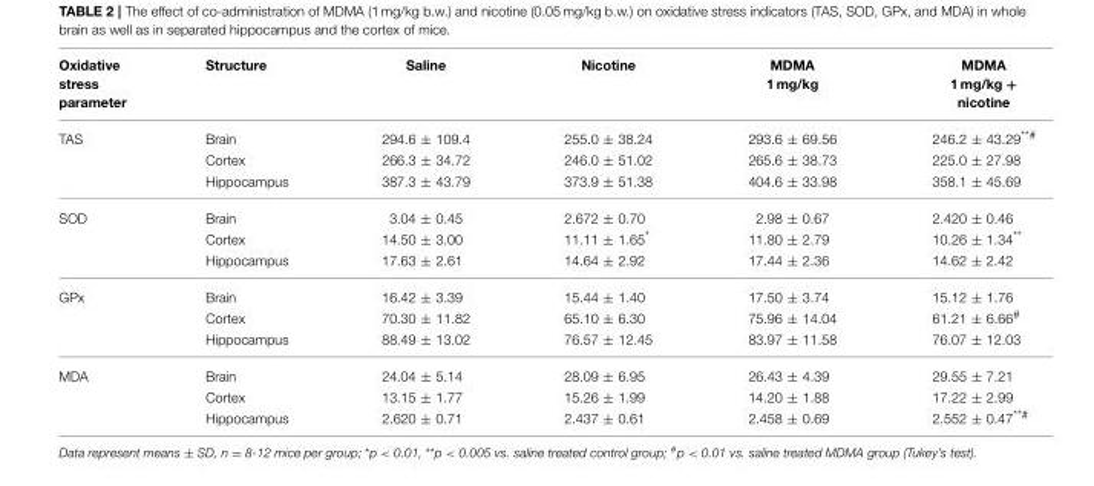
<table><thead><tr><td>Oxidative stress parameter</td><td>Structure</td><td>Saline</td><td>Nicotine</td><td>MDMA 1 mg/kg</td><td>MDMA 1 mg/kg + nicotine</td></tr></thead><tbody><tr><td rowspan="3">TAS</td><td>Brain</td><td>294.6 ± 109.4</td><td>255.0 ± 38.24</td><td>293.6 ± 69.56</td><td>246.2 ± 43.29<sup>**#</sup></td></tr><tr><td>Cortex</td><td>266.3 ± 34.72</td><td>246.0 ± 51.02</td><td>265.6 ± 38.73</td><td>225.0 ± 27.98</td></tr><tr><td>Hippocampus</td><td>387.3 ± 43.79</td><td>373.9 ± 51.38</td><td>404.6 ± 33.98</td><td>358.1 ± 45.69</td></tr><tr><td rowspan="3">SOD</td><td>Brain</td><td>3.04 ± 0.45</td><td>2.672 ± 0.70</td><td>2.98 ± 0.67</td><td>2.420 ± 0.46</td></tr><tr><td>Cortex</td><td>14.50 ± 3.00</td><td>11.11 ± 1.65*</td><td>11.80 ± 2.79</td><td>10.26 ± 1.34**</td></tr><tr><td>Hippocampus</td><td>17.63 ± 2.61</td><td>14.64 ± 2.92</td><td>17.44 ± 2.36</td><td>14.62 ± 2.42</td></tr><tr><td rowspan="3">GPx</td><td>Brain</td><td>16.42 ± 3.39</td><td>15.44 ± 1.40</td><td>17.50 ± 3.74</td><td>15.12 ± 1.76</td></tr><tr><td>Cortex</td><td>70.30 ± 11.82</td><td>65.10 ± 6.30</td><td>75.96 ± 14.04</td><td>61.21 ± 6.66<sup>#</sup></td></tr><tr><td>Hippocampus</td><td>88.49 ± 13.02</td><td>76.57 ± 12.45</td><td>83.97 ± 11.58</td><td>76.07 ± 12.03</td></tr><tr><td rowspan="3">MDA</td><td>Brain</td><td>24.04 ± 5.14</td><td>28.09 ± 6.95</td><td>26.43 ± 4.39</td><td>29.55 ± 7.21</td></tr><tr><td>Cortex</td><td>13.15 ± 1.77</td><td>15.26 ± 1.99</td><td>14.20 ± 1.88</td><td>17.22 ± 2.99</td></tr><tr><td>Hippocampus</td><td>2.620 ± 0.71</td><td>2.437 ± 0.61</td><td>2.458 ± 0.69</td><td>2.552 ± 0.47<sup>**#</sup></td></tr></tbody></table>